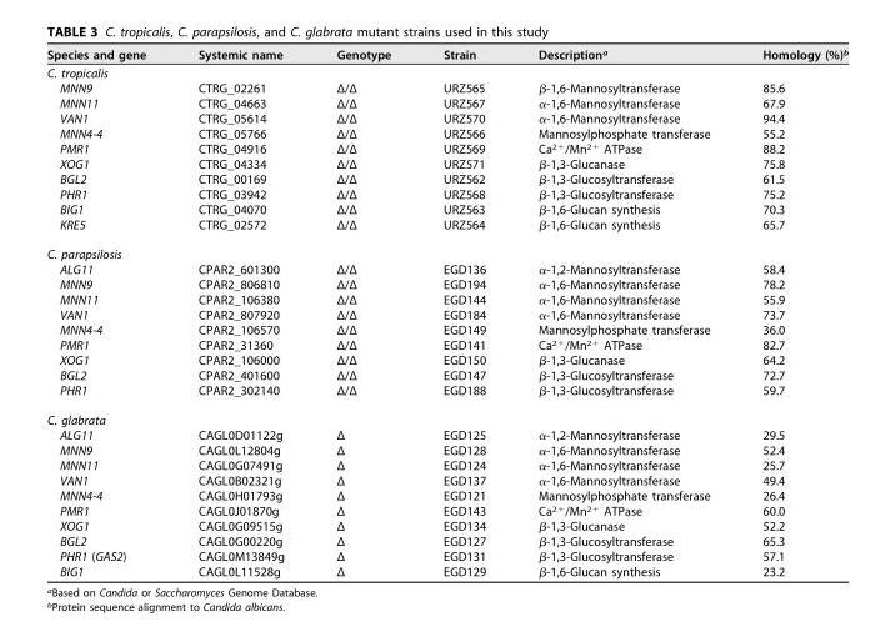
<table><thead><tr><td>Species and gene</td><td>Systemic name</td><td>Genotype</td><td>Strain</td><td>Description<sup>a</sup></td><td>Homology (%)<sup>b</sup></td></tr></thead><tbody><tr><td colspan="6">C. tropicalis</td></tr><tr><td>MNN9</td><td>CTRG_02261</td><td>Δ/Δ</td><td>URZ565</td><td>β-1,6-Mannosyltransferase</td><td>85.6</td></tr><tr><td>MNN11</td><td>CTRG_04663</td><td>Δ/Δ</td><td>URZ567</td><td>α-1,6-Mannosyltransferase</td><td>67.9</td></tr><tr><td>VAN1</td><td>CTRG_05614</td><td>Δ/Δ</td><td>URZ570</td><td>α-1,6-Mannosyltransferase</td><td>94.4</td></tr><tr><td>MNN4-4</td><td>CTRG_05766</td><td>Δ/Δ</td><td>URZ566</td><td>Mannosylphosphate transferase</td><td>55.2</td></tr><tr><td>PMR1</td><td>CTRG_04916</td><td>Δ/Δ</td><td>URZ569</td><td>Ca<sup>2+</sup>/Mn<sup>2+</sup> ATPase</td><td>88.2</td></tr><tr><td>XOG1</td><td>CTRG_04334</td><td>Δ/Δ</td><td>URZ571</td><td>β-1,3-Glucanase</td><td>75.8</td></tr><tr><td>BGL2</td><td>CTRG_00169</td><td>Δ/Δ</td><td>URZ562</td><td>β-1,3-Glucosyltransferase</td><td>61.5</td></tr><tr><td>PHR1</td><td>CTRG_03942</td><td>Δ/Δ</td><td>URZ568</td><td>β-1,3-Glucosyltransferase</td><td>75.2</td></tr><tr><td>BIG1</td><td>CTRG_04070</td><td>Δ/Δ</td><td>URZ563</td><td>β-1,6-Glucan synthesis</td><td>70.3</td></tr><tr><td>KRE5</td><td>CTRG_02572</td><td>Δ/Δ</td><td>URZ564</td><td>β-1,6-Glucan synthesis</td><td>65.7</td></tr><tr><td colspan="6">C. parapsilosis</td></tr><tr><td>ALG11</td><td>CPAR2_601300</td><td>Δ/Δ</td><td>EGD136</td><td>α-1,2-Mannosyltransferase</td><td>58.4</td></tr><tr><td>MNN9</td><td>CPAR2_806810</td><td>Δ/Δ</td><td>EGD194</td><td>α-1,6-Mannosyltransferase</td><td>78.2</td></tr><tr><td>MNN11</td><td>CPAR2_106380</td><td>Δ/Δ</td><td>EGD144</td><td>α-1,6-Mannosyltransferase</td><td>55.9</td></tr><tr><td>VAN1</td><td>CPAR2_807920</td><td>Δ/Δ</td><td>EGD184</td><td>α-1,6-Mannosyltransferase</td><td>73.7</td></tr><tr><td>MNN4-4</td><td>CPAR2_106570</td><td>Δ/Δ</td><td>EGD149</td><td>Mannosylphosphate transferase</td><td>36.0</td></tr><tr><td>PMR1</td><td>CPAR2_31360</td><td>Δ/Δ</td><td>EGD141</td><td>Ca<sup>2+</sup>/Mn<sup>2+</sup> ATPase</td><td>82.7</td></tr><tr><td>XOG1</td><td>CPAR2_106000</td><td>Δ/Δ</td><td>EGD150</td><td>β-1,3-Glucanase</td><td>64.2</td></tr><tr><td>BGL2</td><td>CPAR2_401600</td><td>Δ/Δ</td><td>EGD147</td><td>β-1,3-Glucosyltransferase</td><td>72.7</td></tr><tr><td>PHR1</td><td>CPAR2_302140</td><td>Δ/Δ</td><td>EGD188</td><td>β-1,3-Glucosyltransferase</td><td>59.7</td></tr><tr><td colspan="6">C. glabrata</td></tr><tr><td>ALG11</td><td>CAGL0D01122g</td><td>Δ</td><td>EGD125</td><td>α-1,2-Mannosyltransferase</td><td>29.5</td></tr><tr><td>MNN9</td><td>CAGL0L12804g</td><td>Δ</td><td>EGD128</td><td>α-1,6-Mannosyltransferase</td><td>52.4</td></tr><tr><td>MNN11</td><td>CAGL0G07491g</td><td>Δ</td><td>EGD124</td><td>α-1,6-Mannosyltransferase</td><td>25.7</td></tr><tr><td>VAN1</td><td>CAGL0B02321g</td><td>Δ</td><td>EGD137</td><td>α-1,6-Mannosyltransferase</td><td>49.4</td></tr><tr><td>MNN4-4</td><td>CAGL0H01793g</td><td>Δ</td><td>EGD121</td><td>Mannosylphosphate transferase</td><td>26.4</td></tr><tr><td>PMR1</td><td>CAGL0J01870g</td><td>Δ</td><td>EGD143</td><td>Ca<sup>2+</sup>/Mn<sup>2+</sup> ATPase</td><td>60.0</td></tr><tr><td>XOG1</td><td>CAGL0G09515g</td><td>Δ</td><td>EGD134</td><td>β-1,3-Glucanase</td><td>52.2</td></tr><tr><td>BGL2</td><td>CAGL0G00220g</td><td>Δ</td><td>EGD127</td><td>β-1,3-Glucosyltransferase</td><td>65.3</td></tr><tr><td>PHR1 (GAS2)</td><td>CAGL0M13849g</td><td>Δ</td><td>EGD131</td><td>β-1,3-Glucosyltransferase</td><td>57.1</td></tr><tr><td>BIG1</td><td>CAGL0L11528g</td><td>Δ</td><td>EGD129</td><td>β-1,6-Glucan synthesis</td><td>23.2</td></tr></tbody></table>